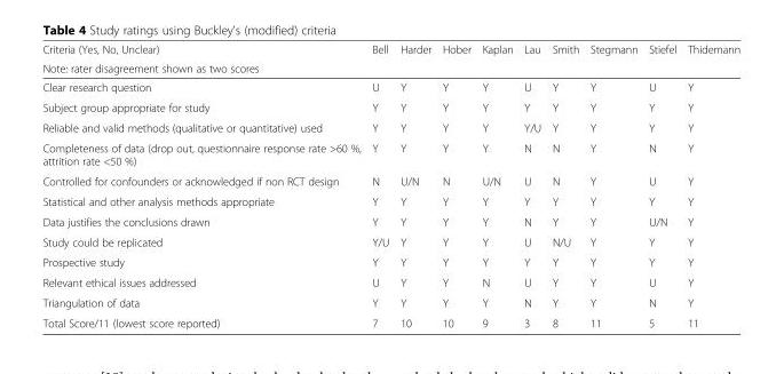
<table><thead><tr><td rowspan="2">Criteria (Yes, No, Unclear) Note: rater disagreement shown as two scores</td><td rowspan="2">Bell</td><td rowspan="2">Harder</td><td rowspan="2">Hober</td><td rowspan="2">Kaplan</td><td rowspan="2">Lau</td><td rowspan="2">Smith</td><td rowspan="2">Stegmann</td><td rowspan="2">Stiefel</td><td rowspan="2">Thidemann</td></tr><tr></tr></thead><tbody><tr><td>Clear research question</td><td>U</td><td>Y</td><td>Y</td><td>Y</td><td>U</td><td>Y</td><td>Y</td><td>U</td><td>Y</td></tr><tr><td>Subject group appropriate for study</td><td>Y</td><td>Y</td><td>Y</td><td>Y</td><td>Y</td><td>Y</td><td>Y</td><td>Y</td><td>Y</td></tr><tr><td>Reliable and valid methods (qualitative or quantitative) used</td><td>Y</td><td>Y</td><td>Y</td><td>Y</td><td>Y/U</td><td>Y</td><td>Y</td><td>Y</td><td>Y</td></tr><tr><td>Completeness of data (drop out, questionnaire response rate &gt;60 %, attrition rate &lt;50 %)</td><td>Y</td><td>Y</td><td>Y</td><td>Y</td><td>N</td><td>N</td><td>Y</td><td>N</td><td>Y</td></tr><tr><td>Controlled for confounders or acknowledged if non RCT design</td><td>N</td><td>U/N</td><td>N</td><td>U/N</td><td>U</td><td>N</td><td>Y</td><td>U</td><td>Y</td></tr><tr><td>Statistical and other analysis methods appropriate</td><td>Y</td><td>Y</td><td>Y</td><td>Y</td><td>Y</td><td>Y</td><td>Y</td><td>Y</td><td>Y</td></tr><tr><td>Data justifies the conclusions drawn</td><td>Y</td><td>Y</td><td>Y</td><td>Y</td><td>N</td><td>Y</td><td>Y</td><td>U/N</td><td>Y</td></tr><tr><td>Study could be replicated</td><td>Y/U</td><td>Y</td><td>Y</td><td>Y</td><td>U</td><td>N/U</td><td>Y</td><td>Y</td><td>Y</td></tr><tr><td>Prospective study</td><td>Y</td><td>Y</td><td>Y</td><td>Y</td><td>Y</td><td>Y</td><td>Y</td><td>Y</td><td>Y</td></tr><tr><td>Relevant ethical issues addressed</td><td>U</td><td>Y</td><td>Y</td><td>N</td><td>U</td><td>Y</td><td>Y</td><td>U</td><td>Y</td></tr><tr><td>Triangulation of data</td><td>Y</td><td>Y</td><td>Y</td><td>Y</td><td>N</td><td>Y</td><td>Y</td><td>N</td><td>Y</td></tr><tr><td>Total Score/11 (lowest score reported)</td><td>7</td><td>10</td><td>10</td><td>9</td><td>3</td><td>8</td><td>11</td><td>5</td><td>11</td></tr></tbody></table>